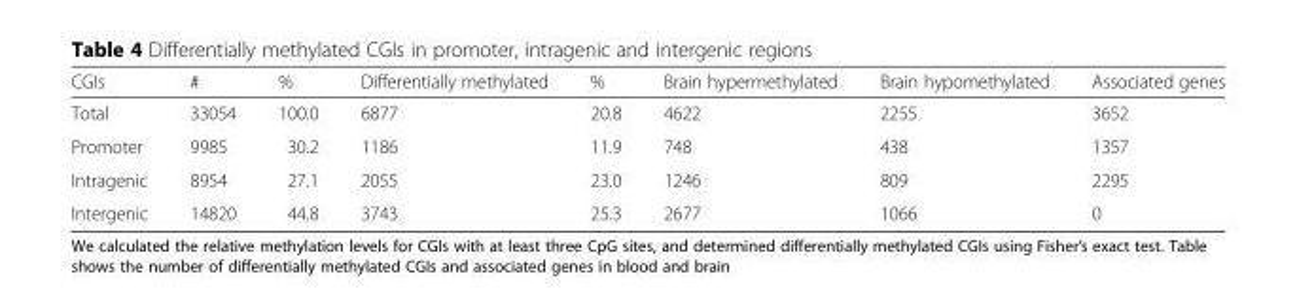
<table><thead><tr><td>CGIs</td><td>#</td><td>%</td><td>Differentially methylated</td><td>%</td><td>Brain hypermethylated</td><td>Brain hypomethylated</td><td>Associated genes</td></tr></thead><tbody><tr><td>Total</td><td>33054</td><td>100.0</td><td>6877</td><td>20.8</td><td>4622</td><td>2255</td><td>3652</td></tr><tr><td>Promoter</td><td>9985</td><td>30.2</td><td>1186</td><td>11.9</td><td>748</td><td>438</td><td>1357</td></tr><tr><td>Intragenic</td><td>8954</td><td>27.1</td><td>2055</td><td>23.0</td><td>1246</td><td>809</td><td>2295</td></tr><tr><td>Intergenic</td><td>14820</td><td>44.8</td><td>3743</td><td>25.3</td><td>2677</td><td>1066</td><td>0</td></tr></tbody></table>